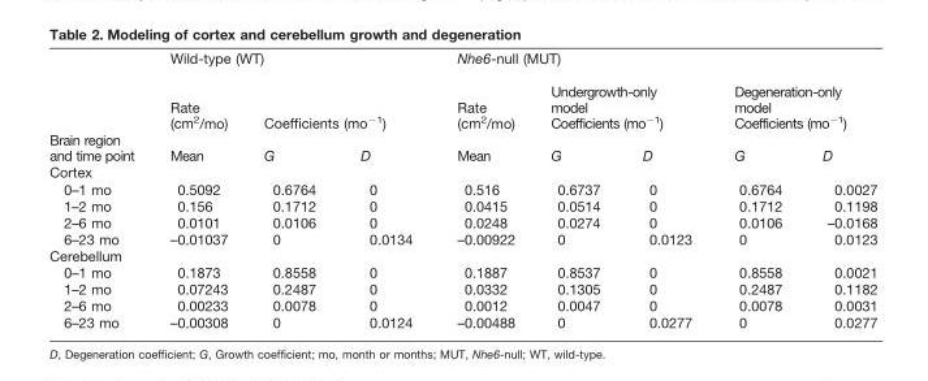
<table><thead><tr><td rowspan="3">Brain region and time point</td><td colspan="3">Wild-type (WT)</td><td colspan="5">Nhe6-null (MUT)</td></tr><tr><td rowspan="2">Rate (cm<sup>2</sup>/mo) Mean</td><td colspan="2">Coefficients (mo<sup>−1</sup>)</td><td rowspan="2">Rate (cm<sup>2</sup>/mo) Mean</td><td colspan="2">Undergrowth-only model Coefficients (mo<sup>−1</sup>)</td><td colspan="2">Degeneration-only model Coefficients (mo<sup>−1</sup>)</td></tr><tr><td>G</td><td>D</td><td>G</td><td>D</td><td>G</td><td>D</td></tr></thead><tbody><tr><td colspan="9">Cortex</td></tr><tr><td>0–1 mo</td><td>0.5092</td><td>0.6764</td><td>0</td><td>0.516</td><td>0.6737</td><td>0</td><td>0.6764</td><td>0.0027</td></tr><tr><td>1–2 mo</td><td>0.156</td><td>0.1712</td><td>0</td><td>0.0415</td><td>0.0514</td><td>0</td><td>0.1712</td><td>0.1198</td></tr><tr><td>2–6 mo</td><td>0.0101</td><td>0.0106</td><td>0</td><td>0.0248</td><td>0.0274</td><td>0</td><td>0.0106</td><td>–0.0168</td></tr><tr><td>6–23 mo</td><td>–0.01037</td><td>0</td><td>0.0134</td><td>–0.00922</td><td>0</td><td>0.0123</td><td>0</td><td>0.0123</td></tr><tr><td colspan="9">Cerebellum</td></tr><tr><td>0–1 mo</td><td>0.1873</td><td>0.8558</td><td>0</td><td>0.1887</td><td>0.8537</td><td>0</td><td>0.8558</td><td>0.0021</td></tr><tr><td>1–2 mo</td><td>0.07243</td><td>0.2487</td><td>0</td><td>0.0332</td><td>0.1305</td><td>0</td><td>0.2487</td><td>0.1182</td></tr><tr><td>2–6 mo</td><td>0.00233</td><td>0.0078</td><td>0</td><td>0.0012</td><td>0.0047</td><td>0</td><td>0.0078</td><td>0.0031</td></tr><tr><td>6–23 mo</td><td>–0.00308</td><td>0</td><td>0.0124</td><td>–0.00488</td><td>0</td><td>0.0277</td><td>0</td><td>0.0277</td></tr></tbody></table>